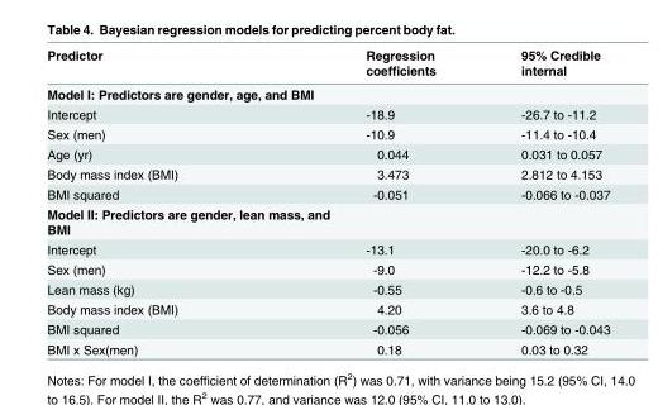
<table><thead><tr><td>Predictor</td><td>Regression coefficients</td><td>95% Credible internal</td></tr></thead><tbody><tr><td colspan="3">Model I: Predictors are gender, age, and BMI</td></tr><tr><td>Intercept</td><td>-18.9</td><td>-26.7 to -11.2</td></tr><tr><td>Sex (men)</td><td>-10.9</td><td>-11.4 to -10.4</td></tr><tr><td>Age (yr)</td><td>0.044</td><td>0.031 to 0.057</td></tr><tr><td>Body mass index (BMI)</td><td>3.473</td><td>2.812 to 4.153</td></tr><tr><td>BMI squared</td><td>-0.051</td><td>-0.066 to -0.037</td></tr><tr><td colspan="3">Model II: Predictors are gender, lean mass, and BMI</td></tr><tr><td>Intercept</td><td>-13.1</td><td>-20.0 to -6.2</td></tr><tr><td>Sex (men)</td><td>-9.0</td><td>-12.2 to -5.8</td></tr><tr><td>Lean mass (kg)</td><td>-0.55</td><td>-0.6 to -0.5</td></tr><tr><td>Body mass index (BMI)</td><td>4.20</td><td>3.6 to 4.8</td></tr><tr><td>BMI squared</td><td>-0.056</td><td>-0.069 to -0.043</td></tr><tr><td>BMI x Sex(men)</td><td>0.18</td><td>0.03 to 0.32</td></tr></tbody></table>